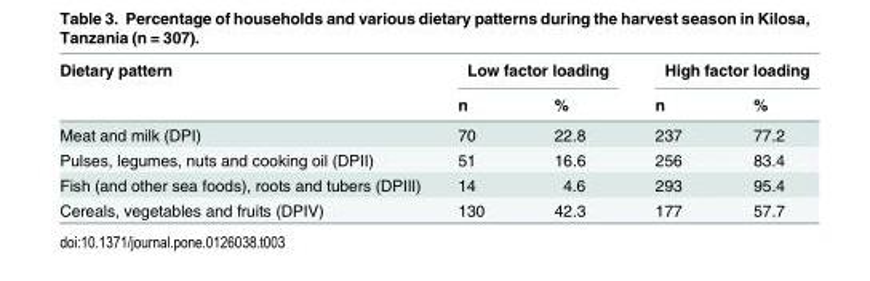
<table><thead><tr><td rowspan="2">Dietary pattern</td><td colspan="2">Low factor loading</td><td colspan="2">High factor loading</td></tr><tr><td>n</td><td>%</td><td>n</td><td>%</td></tr></thead><tbody><tr><td>Meat and milk (DPI)</td><td>70</td><td>22.8</td><td>237</td><td>77.2</td></tr><tr><td>Pulses, legumes, nuts and cooking oil (DPII)</td><td>51</td><td>16.6</td><td>256</td><td>83.4</td></tr><tr><td>Fish (and other sea foods), roots and tubers (DPIII)</td><td>14</td><td>4.6</td><td>293</td><td>95.4</td></tr><tr><td>Cereals, vegetables and fruits (DPIV)</td><td>130</td><td>42.3</td><td>177</td><td>57.7</td></tr></tbody></table>